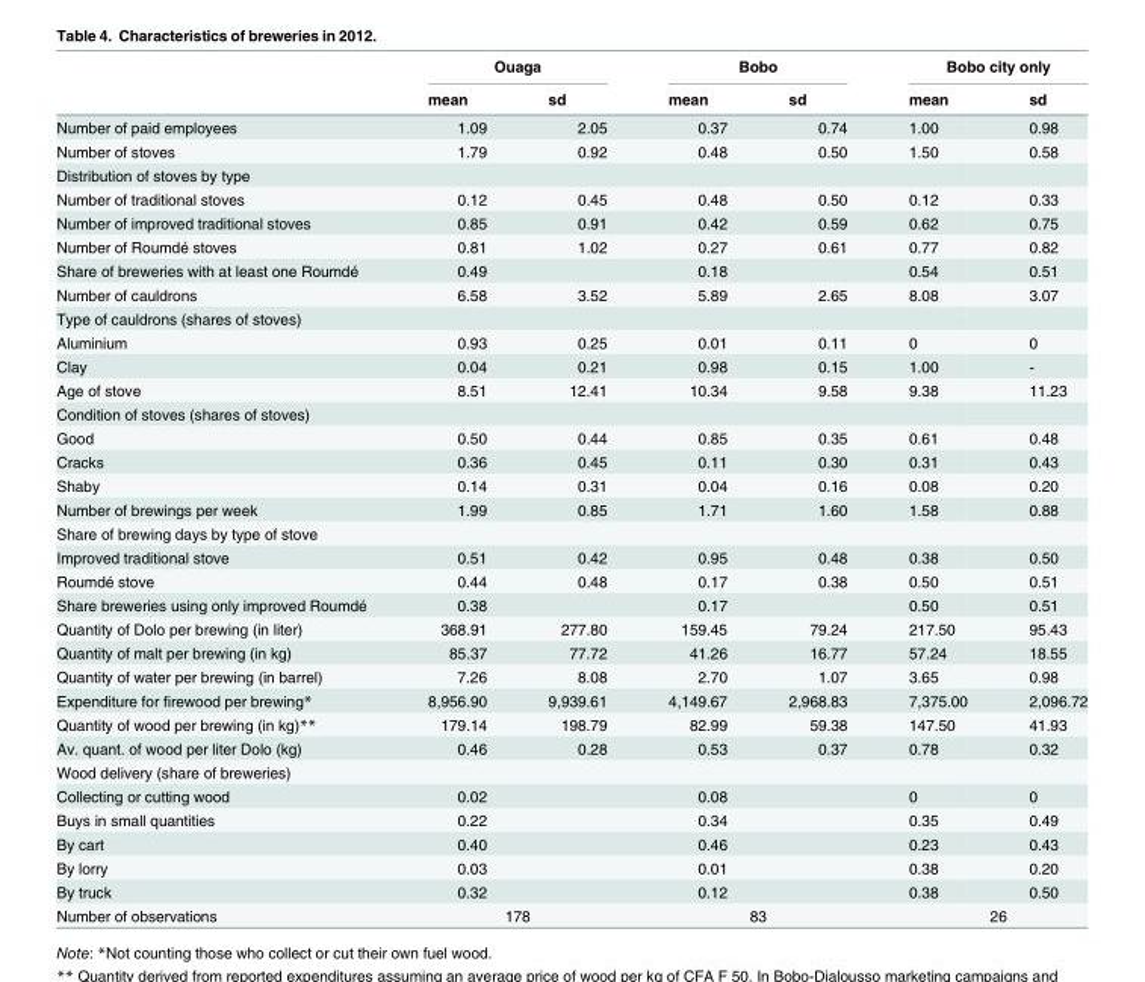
<table><thead><tr><td rowspan="2"></td><td colspan="2">Ouaga</td><td colspan="2">Bobo</td><td colspan="2">Bobo city only</td></tr><tr><td>mean</td><td>sd</td><td>mean</td><td>sd</td><td>mean</td><td>sd</td></tr></thead><tbody><tr><td>Number of paid employees</td><td>1.09</td><td>2.05</td><td>0.37</td><td>0.74</td><td>1.00</td><td>0.98</td></tr><tr><td>Number of stoves</td><td>1.79</td><td>0.92</td><td>0.48</td><td>0.50</td><td>1.50</td><td>0.58</td></tr><tr><td colspan="7">Distribution of stoves by type</td></tr><tr><td>Number of traditional stoves</td><td>0.12</td><td>0.45</td><td>0.48</td><td>0.50</td><td>0.12</td><td>0.33</td></tr><tr><td>Number of improved traditional stoves</td><td>0.85</td><td>0.91</td><td>0.42</td><td>0.59</td><td>0.62</td><td>0.75</td></tr><tr><td>Number of Roumdé stoves</td><td>0.81</td><td>1.02</td><td>0.27</td><td>0.61</td><td>0.77</td><td>0.82</td></tr><tr><td>Share of breweries with at least one Roumdé</td><td>0.49</td><td></td><td>0.18</td><td></td><td>0.54</td><td>0.51</td></tr><tr><td>Number of cauldrons</td><td>6.58</td><td>3.52</td><td>5.89</td><td>2.65</td><td>8.08</td><td>3.07</td></tr><tr><td colspan="7">Type of cauldrons (shares of stoves)</td></tr><tr><td>Aluminium</td><td>0.93</td><td>0.25</td><td>0.01</td><td>0.11</td><td>0</td><td>0</td></tr><tr><td>Clay</td><td>0.04</td><td>0.21</td><td>0.98</td><td>0.15</td><td>1.00</td><td>-</td></tr><tr><td>Age of stove</td><td>8.51</td><td>12.41</td><td>10.34</td><td>9.58</td><td>9.38</td><td>11.23</td></tr><tr><td colspan="7">Condition of stoves (shares of stoves)</td></tr><tr><td>Good</td><td>0.50</td><td>0.44</td><td>0.85</td><td>0.35</td><td>0.61</td><td>0.48</td></tr><tr><td>Cracks</td><td>0.36</td><td>0.45</td><td>0.11</td><td>0.30</td><td>0.31</td><td>0.43</td></tr><tr><td>Shaby</td><td>0.14</td><td>0.31</td><td>0.04</td><td>0.16</td><td>0.08</td><td>0.20</td></tr><tr><td>Number of brewings per week</td><td>1.99</td><td>0.85</td><td>1.71</td><td>1.60</td><td>1.58</td><td>0.88</td></tr><tr><td colspan="7">Share of brewing days by type of stove</td></tr><tr><td>Improved traditional stove</td><td>0.51</td><td>0.42</td><td>0.95</td><td>0.48</td><td>0.38</td><td>0.50</td></tr><tr><td>Roumdé stove</td><td>0.44</td><td>0.48</td><td>0.17</td><td>0.38</td><td>0.50</td><td>0.51</td></tr><tr><td>Share breweries using only improved Roumdé</td><td>0.38</td><td></td><td>0.17</td><td></td><td>0.50</td><td>0.51</td></tr><tr><td>Quantity of Dolo per brewing (in liter)</td><td>368.91</td><td>277.80</td><td>159.45</td><td>79.24</td><td>217.50</td><td>95.43</td></tr><tr><td>Quantity of malt per brewing (in kg)</td><td>85.37</td><td>77.72</td><td>41.26</td><td>16.77</td><td>57.24</td><td>18.55</td></tr><tr><td>Quantity of water per brewing (in barrel)</td><td>7.26</td><td>8.08</td><td>2.70</td><td>1.07</td><td>3.65</td><td>0.98</td></tr><tr><td>Expenditure for firewood per brewing*</td><td>8,956.90</td><td>9,939.61</td><td>4,149.67</td><td>2,968.83</td><td>7,375.00</td><td>2,096.72</td></tr><tr><td>Quantity of wood per brewing (in kg)**</td><td>179.14</td><td>198.79</td><td>82.99</td><td>59.38</td><td>147.50</td><td>41.93</td></tr><tr><td>Av. quant. of wood per liter Dolo (kg)</td><td>0.46</td><td>0.28</td><td>0.53</td><td>0.37</td><td>0.78</td><td>0.32</td></tr><tr><td colspan="7">Wood delivery (share of breweries)</td></tr><tr><td>Collecting or cutting wood</td><td>0.02</td><td></td><td>0.08</td><td></td><td>0</td><td>0</td></tr><tr><td>Buys in small quantities</td><td>0.22</td><td></td><td>0.34</td><td></td><td>0.35</td><td>0.49</td></tr><tr><td>By cart</td><td>0.40</td><td></td><td>0.46</td><td></td><td>0.23</td><td>0.43</td></tr><tr><td>By lorry</td><td>0.03</td><td></td><td>0.01</td><td></td><td>0.38</td><td>0.20</td></tr><tr><td>By truck</td><td>0.32</td><td></td><td>0.12</td><td></td><td>0.38</td><td>0.50</td></tr><tr><td>Number of observations</td><td colspan="2">178</td><td colspan="2">83</td><td colspan="2">26</td></tr></tbody></table>